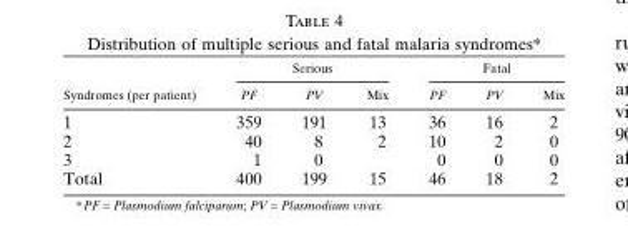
<table><thead><tr><td rowspan="2">Syndromes (per patient)</td><td colspan="3">Serious</td><td colspan="3">Fatal</td></tr><tr><td>PF</td><td>PV</td><td>Mix</td><td>PF</td><td>PV</td><td>Mix</td></tr></thead><tbody><tr><td>1</td><td>359</td><td>191</td><td>13</td><td>36</td><td>16</td><td>2</td></tr><tr><td>2</td><td>40</td><td>8</td><td>2</td><td>10</td><td>2</td><td>0</td></tr><tr><td>3</td><td>1</td><td>0</td><td></td><td>0</td><td>0</td><td>0</td></tr><tr><td>Total</td><td>400</td><td>199</td><td>15</td><td>46</td><td>18</td><td>2</td></tr></tbody></table>